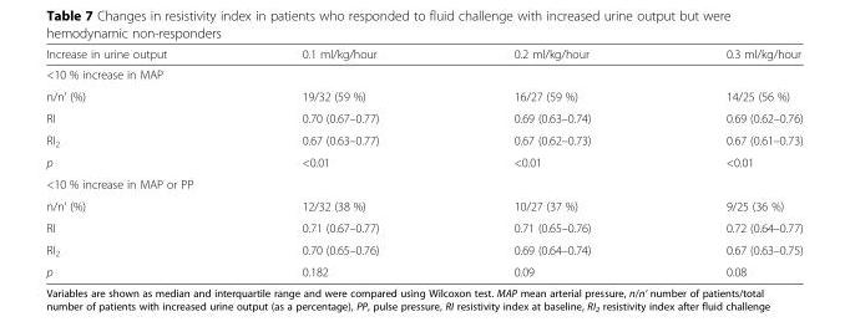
<table><thead><tr><td>Increase in urine output</td><td>0.1 ml/kg/hour</td><td>0.2 ml/kg/hour</td><td>0.3 ml/kg/hour</td></tr></thead><tbody><tr><td colspan="4">&lt;10 % increase in MAP</td></tr><tr><td>n/n’ (%)</td><td>19/32 (59 %)</td><td>16/27 (59 %)</td><td>14/25 (56 %)</td></tr><tr><td>RI</td><td>0.70 (0.67–0.77)</td><td>0.69 (0.63–0.74)</td><td>0.69 (0.62–0.76)</td></tr><tr><td>RI<sub>2</sub></td><td>0.67 (0.63–0.77)</td><td>0.67 (0.62–0.73)</td><td>0.67 (0.61–0.73)</td></tr><tr><td>p</td><td>&lt;0.01</td><td>&lt;0.01</td><td>&lt;0.01</td></tr><tr><td colspan="4">&lt;10 % increase in MAP or PP</td></tr><tr><td>n/n’ (%)</td><td>12/32 (38 %)</td><td>10/27 (37 %)</td><td>9/25 (36 %)</td></tr><tr><td>RI</td><td>0.71 (0.67–0.77)</td><td>0.71 (0.65–0.76)</td><td>0.72 (0.64–0.77)</td></tr><tr><td>RI<sub>2</sub></td><td>0.70 (0.65–0.76)</td><td>0.69 (0.64–0.74)</td><td>0.67 (0.63–0.75)</td></tr><tr><td>p</td><td>0.182</td><td>0.09</td><td>0.08</td></tr></tbody></table>